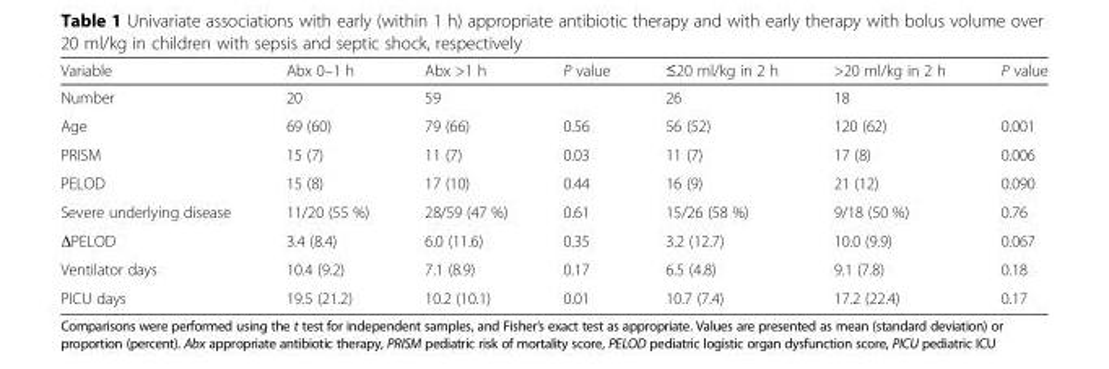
<table><thead><tr><td>Variable</td><td>Abx 0–1 h</td><td>Abx &gt;1 h</td><td>P value</td><td>≤20 ml/kg in 2 h</td><td>&gt;20 ml/kg in 2 h</td><td>P value</td></tr></thead><tbody><tr><td>Number</td><td>20</td><td>59</td><td></td><td>26</td><td>18</td><td></td></tr><tr><td>Age</td><td>69 (60)</td><td>79 (66)</td><td>0.56</td><td>56 (52)</td><td>120 (62)</td><td>0.001</td></tr><tr><td>PRISM</td><td>15 (7)</td><td>11 (7)</td><td>0.03</td><td>11 (7)</td><td>17 (8)</td><td>0.006</td></tr><tr><td>PELOD</td><td>15 (8)</td><td>17 (10)</td><td>0.44</td><td>16 (9)</td><td>21 (12)</td><td>0.090</td></tr><tr><td>Severe underlying disease</td><td>11/20 (55 %)</td><td>28/59 (47 %)</td><td>0.61</td><td>15/26 (58 %)</td><td>9/18 (50 %)</td><td>0.76</td></tr><tr><td>ΔPELOD</td><td>3.4 (8.4)</td><td>6.0 (11.6)</td><td>0.35</td><td>3.2 (12.7)</td><td>10.0 (9.9)</td><td>0.067</td></tr><tr><td>Ventilator days</td><td>10.4 (9.2)</td><td>7.1 (8.9)</td><td>0.17</td><td>6.5 (4.8)</td><td>9.1 (7.8)</td><td>0.18</td></tr><tr><td>PICU days</td><td>19.5 (21.2)</td><td>10.2 (10.1)</td><td>0.01</td><td>10.7 (7.4)</td><td>17.2 (22.4)</td><td>0.17</td></tr></tbody></table>